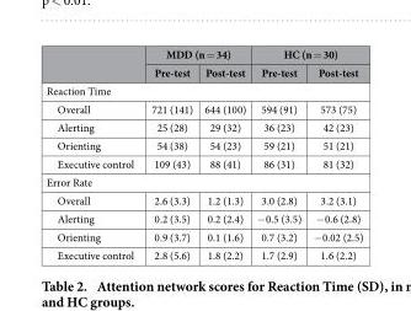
<table><thead><tr><td rowspan="2"></td><td colspan="2">MDD (n = 34)</td><td colspan="2">HC (n = 30)</td></tr><tr><td>Pre-test</td><td>Post-test</td><td>Pre-test</td><td>Post-test</td></tr></thead><tbody><tr><td colspan="5">Reaction Time</td></tr><tr><td>Overall</td><td>721 (141)</td><td>644 (100)</td><td>594 (91)</td><td>573 (75)</td></tr><tr><td>Alerting</td><td>25 (28)</td><td>29 (32)</td><td>36 (23)</td><td>42 (23)</td></tr><tr><td>Orienting</td><td>54 (38)</td><td>54 (23)</td><td>59 (21)</td><td>51 (21)</td></tr><tr><td>Executive control</td><td>109 (43)</td><td>88 (41)</td><td>86 (31)</td><td>81 (32)</td></tr><tr><td colspan="5">Error Rate</td></tr><tr><td>Overall</td><td>2.6 (3.3)</td><td>1.2 (1.3)</td><td>3.0 (2.8)</td><td>3.2 (3.1)</td></tr><tr><td>Alerting</td><td>0.2 (3.5)</td><td>0.2 (2.4)</td><td>− 0.5 (3.5)</td><td>− 0.6 (2.8)</td></tr><tr><td>Orienting</td><td>0.9 (3.7)</td><td>0.1 (1.6)</td><td>0.7 (3.2)</td><td>− 0.02 (2.5)</td></tr><tr><td>Executive control</td><td>2.8 (5.6)</td><td>1.8 (2.2)</td><td>1.7 (2.9)</td><td>1.6 (2.2)</td></tr></tbody></table>